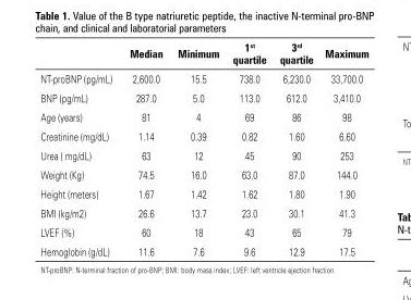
<table><thead><tr><td></td><td>Median</td><td>Minimum</td><td>1st quartile</td><td>3rd quartile</td><td>Maximum</td></tr></thead><tbody><tr><td>NT-proBNP (pg/mL)</td><td>2,600.0</td><td>15.5</td><td>738.0</td><td>6,230.0</td><td>33,700.0</td></tr><tr><td>BNP (pg/mL)</td><td>287.0</td><td>5.0</td><td>113.0</td><td>612.0</td><td>3,410.0</td></tr><tr><td>Age (years)</td><td>81</td><td>4</td><td>69</td><td>86</td><td>98</td></tr><tr><td>Creatinine (mg/dL)</td><td>1.14</td><td>0.39</td><td>0.82</td><td>1.60</td><td>6.60</td></tr><tr><td>Urea ( mg/dL)</td><td>63</td><td>12</td><td>45</td><td>90</td><td>253</td></tr><tr><td>Weight (Kg)</td><td>74.5</td><td>16.0</td><td>63.0</td><td>87.0</td><td>144.0</td></tr><tr><td>Height (meters)</td><td>1.67</td><td>1.42</td><td>1.62</td><td>1.80</td><td>1.90</td></tr><tr><td>BMI (kg/m2)</td><td>26.6</td><td>13.7</td><td>23.0</td><td>30.1</td><td>41.3</td></tr><tr><td>LVEF (%)</td><td>60</td><td>18</td><td>43</td><td>65</td><td>79</td></tr><tr><td>Hemoglobin (g/dL)</td><td>11.6</td><td>7.6</td><td>9.6</td><td>12.9</td><td>17.5</td></tr></tbody></table>